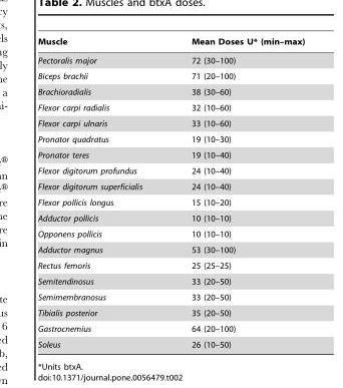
<table><thead><tr><td>Muscle</td><td>Mean Doses U* (min–max)</td></tr></thead><tbody><tr><td>Pectoralis major</td><td>72 (30–100)</td></tr><tr><td>Biceps brachii</td><td>71 (20–100)</td></tr><tr><td>Brachioradialis</td><td>38 (30–60)</td></tr><tr><td>Flexor carpi radialis</td><td>32 (10–60)</td></tr><tr><td>Flexor carpi ulnaris</td><td>33 (10–60)</td></tr><tr><td>Pronator quadratus</td><td>19 (10–30)</td></tr><tr><td>Pronator teres</td><td>19 (10–40)</td></tr><tr><td>Flexor digitorum profundus</td><td>24 (10–40)</td></tr><tr><td>Flexor digitorum superficialis</td><td>24 (10–40)</td></tr><tr><td>Flexor pollicis longus</td><td>15 (10–20)</td></tr><tr><td>Adductor pollicis</td><td>10 (10–10)</td></tr><tr><td>Opponens pollicis</td><td>10 (10–10)</td></tr><tr><td>Adductor magnus</td><td>53 (30–100)</td></tr><tr><td>Rectus femoris</td><td>25 (25–25)</td></tr><tr><td>Semitendinosus</td><td>33 (20–50)</td></tr><tr><td>Semimembranosus</td><td>33 (20–50)</td></tr><tr><td>Tibialis posterior</td><td>35 (20–50)</td></tr><tr><td>Gastrocnemius</td><td>64 (20–100)</td></tr><tr><td>Soleus</td><td>26 (10–50)</td></tr></tbody></table>